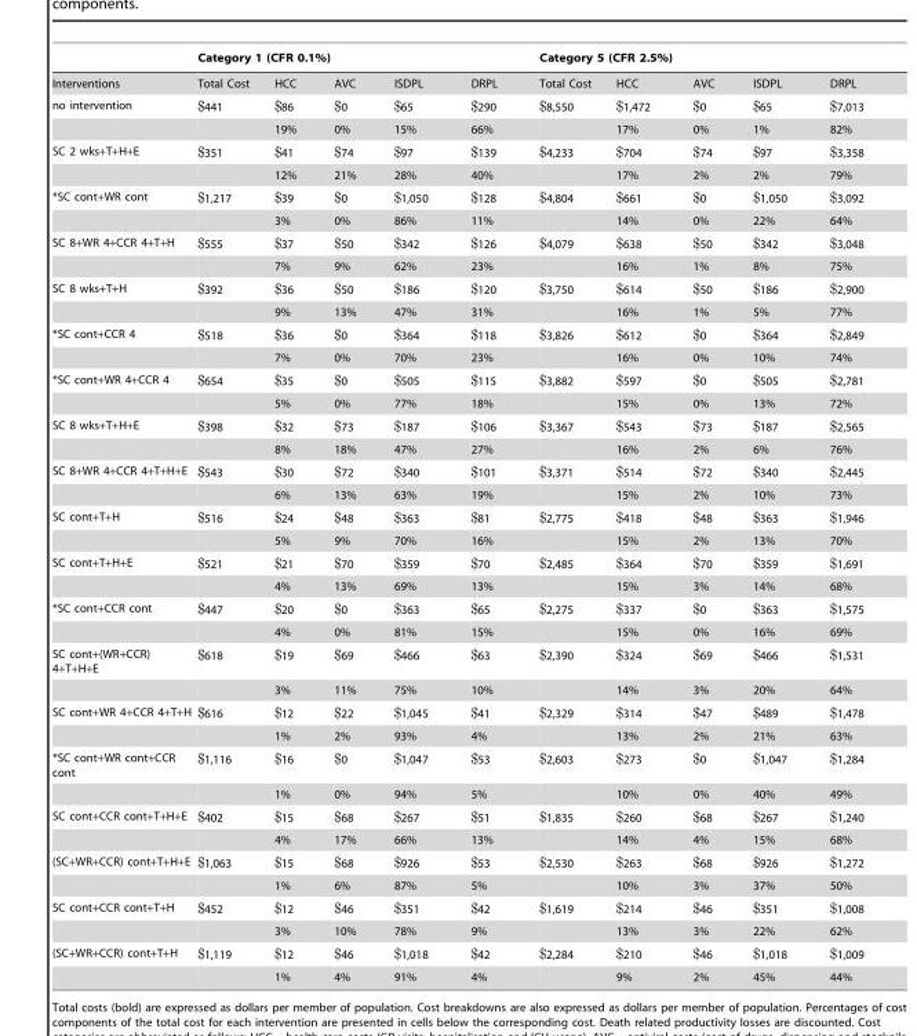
<table><thead><tr><td rowspan="2">Interventions</td><td colspan="5">Category 1 (CFR 0.1%)</td><td colspan="5">Category 5 (CFR 2.5%)</td></tr><tr><td>Total Cost</td><td>HCC</td><td>AVC</td><td>ISDPL</td><td>DRPL</td><td>Total Cost</td><td>HCC</td><td>AVC</td><td>ISDPL</td><td>DRPL</td></tr></thead><tbody><tr><td rowspan="2">no intervention</td><td>$441</td><td>$86</td><td>$0</td><td>$65</td><td>$290</td><td>$8,550</td><td>$1,472</td><td>$0</td><td>$65</td><td>$7,013</td></tr><tr><td></td><td>19%</td><td>0%</td><td>15%</td><td>66%</td><td></td><td>17%</td><td>0%</td><td>1%</td><td>82%</td></tr><tr><td rowspan="2">SC 2 wks+T+H+E</td><td>$351</td><td>$41</td><td>$74</td><td>$97</td><td>$139</td><td>$4,233</td><td>$704</td><td>$74</td><td>$97</td><td>$3,358</td></tr><tr><td></td><td>12%</td><td>21%</td><td>28%</td><td>40%</td><td></td><td>17%</td><td>2%</td><td>2%</td><td>79%</td></tr><tr><td rowspan="2">*SC cont+WR cont</td><td>$1,217</td><td>$39</td><td>$0</td><td>$1,050</td><td>$128</td><td>$4,804</td><td>$661</td><td>$0</td><td>$1,050</td><td>$3,092</td></tr><tr><td></td><td>3%</td><td>0%</td><td>86%</td><td>11%</td><td></td><td>14%</td><td>0%</td><td>22%</td><td>64%</td></tr><tr><td rowspan="2">SC 8+WR 4+CCR 4+T+H</td><td>$555</td><td>$37</td><td>$50</td><td>$342</td><td>$126</td><td>$4,079</td><td>$638</td><td>$50</td><td>$342</td><td>$3,048</td></tr><tr><td></td><td>7%</td><td>9%</td><td>62%</td><td>23%</td><td></td><td>16%</td><td>1%</td><td>8%</td><td>75%</td></tr><tr><td rowspan="2">SC 8 wks+T+H</td><td>$392</td><td>$36</td><td>$50</td><td>$186</td><td>$120</td><td>$3,750</td><td>$614</td><td>$50</td><td>$186</td><td>$2,900</td></tr><tr><td></td><td>9%</td><td>13%</td><td>47%</td><td>31%</td><td></td><td>16%</td><td>1%</td><td>5%</td><td>77%</td></tr><tr><td rowspan="2">*SC cont+CCR 4</td><td>$518</td><td>$36</td><td>$0</td><td>$364</td><td>$118</td><td>$3,826</td><td>$612</td><td>$0</td><td>$364</td><td>$2,849</td></tr><tr><td></td><td>7%</td><td>0%</td><td>70%</td><td>23%</td><td></td><td>16%</td><td>0%</td><td>10%</td><td>74%</td></tr><tr><td rowspan="2">*SC cont+WR 4+CCR 4</td><td>$654</td><td>$35</td><td>$0</td><td>$505</td><td>$115</td><td>$3,882</td><td>$597</td><td>$0</td><td>$505</td><td>$2,781</td></tr><tr><td></td><td>5%</td><td>0%</td><td>77%</td><td>18%</td><td></td><td>15%</td><td>0%</td><td>13%</td><td>72%</td></tr><tr><td rowspan="2">SC 8 wks+T+H+E</td><td>$398</td><td>$32</td><td>$73</td><td>$187</td><td>$106</td><td>$3,367</td><td>$543</td><td>$73</td><td>$187</td><td>$2,565</td></tr><tr><td></td><td>8%</td><td>18%</td><td>47%</td><td>27%</td><td></td><td>16%</td><td>2%</td><td>6%</td><td>76%</td></tr><tr><td rowspan="2">SC 8+WR 4+CCR 4+T+H+E</td><td>$543</td><td>$30</td><td>$72</td><td>$340</td><td>$101</td><td>$3,371</td><td>$514</td><td>$72</td><td>$340</td><td>$2,445</td></tr><tr><td></td><td>6%</td><td>13%</td><td>63%</td><td>19%</td><td></td><td>15%</td><td>2%</td><td>10%</td><td>73%</td></tr><tr><td rowspan="2">SC cont+T+H</td><td>$516</td><td>$24</td><td>$48</td><td>$363</td><td>$81</td><td>$2,775</td><td>$418</td><td>$48</td><td>$363</td><td>$1,946</td></tr><tr><td></td><td>5%</td><td>9%</td><td>70%</td><td>16%</td><td></td><td>15%</td><td>2%</td><td>13%</td><td>70%</td></tr><tr><td rowspan="2">SC cont+T+H+E</td><td>$521</td><td>$21</td><td>$70</td><td>$359</td><td>$70</td><td>$2,485</td><td>$364</td><td>$70</td><td>$359</td><td>$1,691</td></tr><tr><td></td><td>4%</td><td>13%</td><td>69%</td><td>13%</td><td></td><td>15%</td><td>3%</td><td>14%</td><td>68%</td></tr><tr><td rowspan="2">*SC cont+CCR cont</td><td>$447</td><td>$20</td><td>$0</td><td>$363</td><td>$65</td><td>$2,275</td><td>$337</td><td>$0</td><td>$363</td><td>$1,575</td></tr><tr><td></td><td>4%</td><td>0%</td><td>81%</td><td>15%</td><td></td><td>15%</td><td>0%</td><td>16%</td><td>69%</td></tr><tr><td rowspan="2">SC cont+(WR+CCR) 4+T+H+E</td><td>$618</td><td>$19</td><td>$69</td><td>$466</td><td>$63</td><td>$2,390</td><td>$324</td><td>$69</td><td>$466</td><td>$1,531</td></tr><tr><td></td><td>3%</td><td>11%</td><td>75%</td><td>10%</td><td></td><td>14%</td><td>3%</td><td>20%</td><td>64%</td></tr><tr><td rowspan="2">SC cont+WR 4+CCR 4+T+H</td><td>$616</td><td>$12</td><td>$22</td><td>$1,045</td><td>$41</td><td>$2,329</td><td>$314</td><td>$47</td><td>$489</td><td>$1,478</td></tr><tr><td></td><td>1%</td><td>2%</td><td>93%</td><td>4%</td><td></td><td>13%</td><td>2%</td><td>21%</td><td>63%</td></tr><tr><td rowspan="2">*SC cont+WR cont+CCR cont</td><td>$1,116</td><td>$16</td><td>$0</td><td>$1,047</td><td>$53</td><td>$2,603</td><td>$273</td><td>$0</td><td>$1,047</td><td>$1,284</td></tr><tr><td></td><td>1%</td><td>0%</td><td>94%</td><td>5%</td><td></td><td>10%</td><td>0%</td><td>40%</td><td>49%</td></tr><tr><td rowspan="2">SC cont+CCR cont+T+H+E</td><td>$402</td><td>$15</td><td>$68</td><td>$267</td><td>$51</td><td>$1,835</td><td>$260</td><td>$68</td><td>$267</td><td>$1,240</td></tr><tr><td></td><td>4%</td><td>17%</td><td>66%</td><td>13%</td><td></td><td>14%</td><td>4%</td><td>15%</td><td>68%</td></tr><tr><td rowspan="2">(SC+WR+CCR) cont+T+H+E</td><td>$1,063</td><td>$15</td><td>$68</td><td>$926</td><td>$53</td><td>$2,530</td><td>$263</td><td>$68</td><td>$926</td><td>$1,272</td></tr><tr><td></td><td>1%</td><td>6%</td><td>87%</td><td>5%</td><td></td><td>10%</td><td>3%</td><td>37%</td><td>50%</td></tr><tr><td rowspan="2">SC cont+CCR cont+T+H</td><td>$452</td><td>$12</td><td>$46</td><td>$351</td><td>$42</td><td>$1,619</td><td>$214</td><td>$46</td><td>$351</td><td>$1,008</td></tr><tr><td></td><td>3%</td><td>10%</td><td>78%</td><td>9%</td><td></td><td>13%</td><td>3%</td><td>22%</td><td>62%</td></tr><tr><td rowspan="2">(SC+WR+CCR) cont+T+H</td><td>$1,119</td><td>$12</td><td>$46</td><td>$1,018</td><td>$42</td><td>$2,284</td><td>$210</td><td>$46</td><td>$1,018</td><td>$1,009</td></tr><tr><td></td><td>1%</td><td>4%</td><td>91%</td><td>4%</td><td></td><td>9%</td><td>2%</td><td>45%</td><td>44%</td></tr></tbody></table>